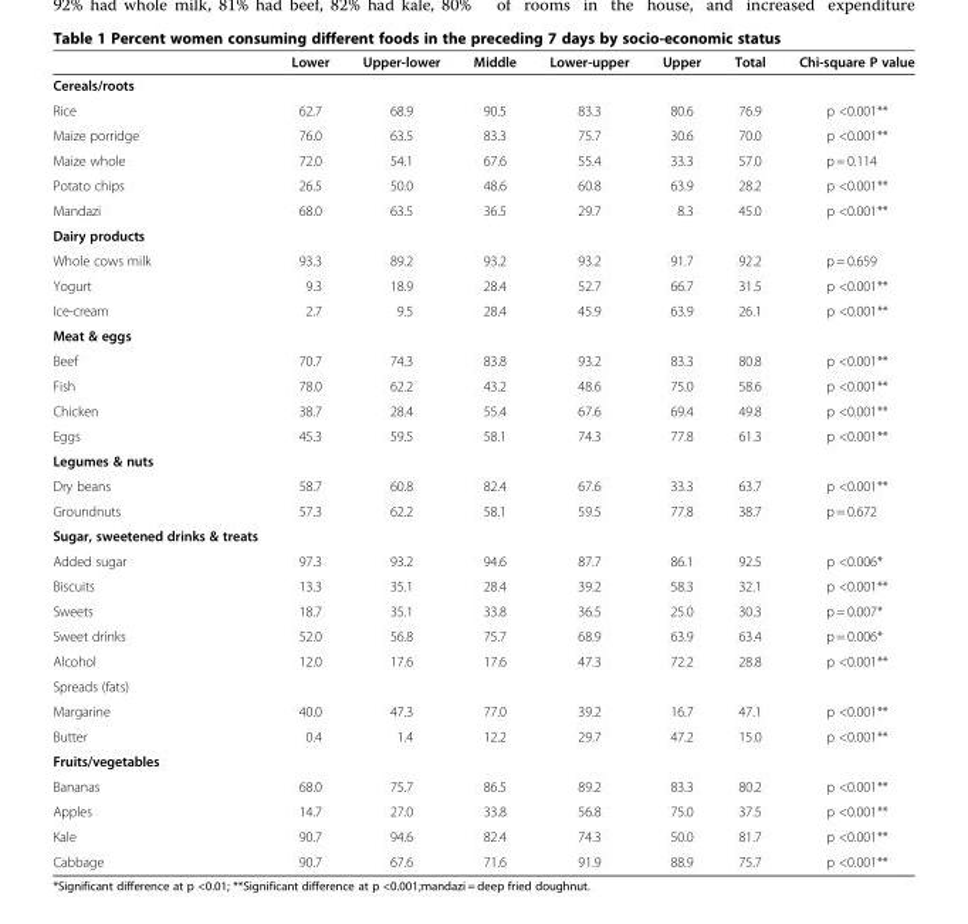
<table><thead><tr><td></td><td>Lower</td><td>Upper-lower</td><td>Middle</td><td>Lower-upper</td><td>Upper</td><td>Total</td><td>Chi-square P value</td></tr></thead><tbody><tr><td colspan="8">Cereals/roots</td></tr><tr><td>Rice</td><td>62.7</td><td>68.9</td><td>90.5</td><td>83.3</td><td>80.6</td><td>76.9</td><td>p &lt;0.001**</td></tr><tr><td>Maize porridge</td><td>76.0</td><td>63.5</td><td>83.3</td><td>75.7</td><td>30.6</td><td>70.0</td><td>p &lt;0.001**</td></tr><tr><td>Maize whole</td><td>72.0</td><td>54.1</td><td>67.6</td><td>55.4</td><td>33.3</td><td>57.0</td><td>p = 0.114</td></tr><tr><td>Potato chips</td><td>26.5</td><td>50.0</td><td>48.6</td><td>60.8</td><td>63.9</td><td>28.2</td><td>p &lt;0.001**</td></tr><tr><td>Mandazi</td><td>68.0</td><td>63.5</td><td>36.5</td><td>29.7</td><td>8.3</td><td>45.0</td><td>p &lt;0.001**</td></tr><tr><td colspan="8">Dairy products</td></tr><tr><td>Whole cows milk</td><td>93.3</td><td>89.2</td><td>93.2</td><td>93.2</td><td>91.7</td><td>92.2</td><td>p = 0.659</td></tr><tr><td>Yogurt</td><td>9.3</td><td>18.9</td><td>28.4</td><td>52.7</td><td>66.7</td><td>31.5</td><td>p &lt;0.001**</td></tr><tr><td>Ice-cream</td><td>2.7</td><td>9.5</td><td>28.4</td><td>45.9</td><td>63.9</td><td>26.1</td><td>p &lt;0.001**</td></tr><tr><td colspan="8">Meat &amp; eggs</td></tr><tr><td>Beef</td><td>70.7</td><td>74.3</td><td>83.8</td><td>93.2</td><td>83.3</td><td>80.8</td><td>p &lt;0.001**</td></tr><tr><td>Fish</td><td>78.0</td><td>62.2</td><td>43.2</td><td>48.6</td><td>75.0</td><td>58.6</td><td>p &lt;0.001**</td></tr><tr><td>Chicken</td><td>38.7</td><td>28.4</td><td>55.4</td><td>67.6</td><td>69.4</td><td>49.8</td><td>p &lt;0.001**</td></tr><tr><td>Eggs</td><td>45.3</td><td>59.5</td><td>58.1</td><td>74.3</td><td>77.8</td><td>61.3</td><td>p &lt;0.001**</td></tr><tr><td colspan="8">Legumes &amp; nuts</td></tr><tr><td>Dry beans</td><td>58.7</td><td>60.8</td><td>82.4</td><td>67.6</td><td>33.3</td><td>63.7</td><td>p &lt;0.001**</td></tr><tr><td>Groundnuts</td><td>57.3</td><td>62.2</td><td>58.1</td><td>59.5</td><td>77.8</td><td>38.7</td><td>p = 0.672</td></tr><tr><td colspan="8">Sugar, sweetened drinks &amp; treats</td></tr><tr><td>Added sugar</td><td>97.3</td><td>93.2</td><td>94.6</td><td>87.7</td><td>86.1</td><td>92.5</td><td>p &lt;0.006*</td></tr><tr><td>Biscuits</td><td>13.3</td><td>35.1</td><td>28.4</td><td>39.2</td><td>58.3</td><td>32.1</td><td>p &lt;0.001**</td></tr><tr><td>Sweets</td><td>18.7</td><td>35.1</td><td>33.8</td><td>36.5</td><td>25.0</td><td>30.3</td><td>p = 0.007*</td></tr><tr><td>Sweet drinks</td><td>52.0</td><td>56.8</td><td>75.7</td><td>68.9</td><td>63.9</td><td>63.4</td><td>p = 0.006*</td></tr><tr><td>Alcohol</td><td>12.0</td><td>17.6</td><td>17.6</td><td>47.3</td><td>72.2</td><td>28.8</td><td>p &lt;0.001**</td></tr><tr><td colspan="8">Spreads (fats)</td></tr><tr><td>Margarine</td><td>40.0</td><td>47.3</td><td>77.0</td><td>39.2</td><td>16.7</td><td>47.1</td><td>p &lt;0.001**</td></tr><tr><td>Butter</td><td>0.4</td><td>1.4</td><td>12.2</td><td>29.7</td><td>47.2</td><td>15.0</td><td>p &lt;0.001**</td></tr><tr><td colspan="8">Fruits/vegetables</td></tr><tr><td>Bananas</td><td>68.0</td><td>75.7</td><td>86.5</td><td>89.2</td><td>83.3</td><td>80.2</td><td>p &lt;0.001**</td></tr><tr><td>Apples</td><td>14.7</td><td>27.0</td><td>33.8</td><td>56.8</td><td>75.0</td><td>37.5</td><td>p &lt;0.001**</td></tr><tr><td>Kale</td><td>90.7</td><td>94.6</td><td>82.4</td><td>74.3</td><td>50.0</td><td>81.7</td><td>p &lt;0.001**</td></tr><tr><td>Cabbage</td><td>90.7</td><td>67.6</td><td>71.6</td><td>91.9</td><td>88.9</td><td>75.7</td><td>p &lt;0.001**</td></tr></tbody></table>